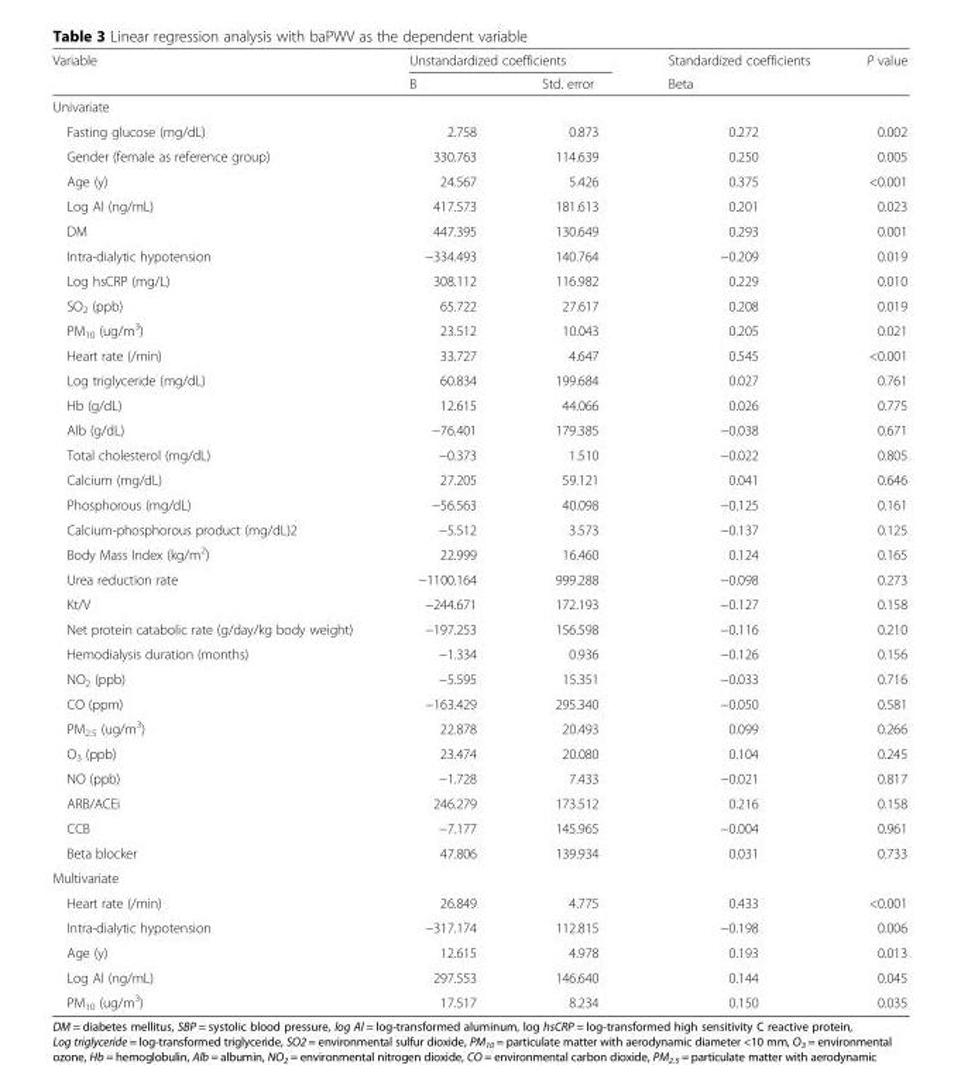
<table><thead><tr><td rowspan="2">Variable</td><td colspan="2">Unstandardized coefficients</td><td rowspan="2">Standardized coefficients Beta</td><td rowspan="2">P value</td></tr><tr><td>B</td><td>Std. error</td></tr></thead><tbody><tr><td colspan="5">Univariate</td></tr><tr><td>Fasting glucose (mg/dL)</td><td>2.758</td><td>0.873</td><td>0.272</td><td>0.002</td></tr><tr><td>Gender (female as reference group)</td><td>330.763</td><td>114.639</td><td>0.250</td><td>0.005</td></tr><tr><td>Age (y)</td><td>24.567</td><td>5.426</td><td>0.375</td><td>&lt;0.001</td></tr><tr><td>Log Al (ng/mL)</td><td>417.573</td><td>181.613</td><td>0.201</td><td>0.023</td></tr><tr><td>DM</td><td>447.395</td><td>130.649</td><td>0.293</td><td>0.001</td></tr><tr><td>Intra-dialytic hypotension</td><td>−334.493</td><td>140.764</td><td>−0.209</td><td>0.019</td></tr><tr><td>Log hsCRP (mg/L)</td><td>308.112</td><td>116.982</td><td>0.229</td><td>0.010</td></tr><tr><td>SO<sub>2</sub> (ppb)</td><td>65.722</td><td>27.617</td><td>0.208</td><td>0.019</td></tr><tr><td>PM<sub>10</sub> (ug/m<sup>3</sup>)</td><td>23.512</td><td>10.043</td><td>0.205</td><td>0.021</td></tr><tr><td>Heart rate (/min)</td><td>33.727</td><td>4.647</td><td>0.545</td><td>&lt;0.001</td></tr><tr><td>Log triglyceride (mg/dL)</td><td>60.834</td><td>199.684</td><td>0.027</td><td>0.761</td></tr><tr><td>Hb (g/dL)</td><td>12.615</td><td>44.066</td><td>0.026</td><td>0.775</td></tr><tr><td>Alb (g/dL)</td><td>−76.401</td><td>179.385</td><td>−0.038</td><td>0.671</td></tr><tr><td>Total cholesterol (mg/dL)</td><td>−0.373</td><td>1.510</td><td>−0.022</td><td>0.805</td></tr><tr><td>Calcium (mg/dL)</td><td>27.205</td><td>59.121</td><td>0.041</td><td>0.646</td></tr><tr><td>Phosphorous (mg/dL)</td><td>−56.563</td><td>40.098</td><td>−0.125</td><td>0.161</td></tr><tr><td>Calcium-phosphorous product (mg/dL)2</td><td>−5.512</td><td>3.573</td><td>−0.137</td><td>0.125</td></tr><tr><td>Body Mass Index (kg/m<sup>2</sup>)</td><td>22.999</td><td>16.460</td><td>0.124</td><td>0.165</td></tr><tr><td>Urea reduction rate</td><td>−1100.164</td><td>999.288</td><td>−0.098</td><td>0.273</td></tr><tr><td>Kt/V</td><td>−244.671</td><td>172.193</td><td>−0.127</td><td>0.158</td></tr><tr><td>Net protein catabolic rate (g/day/kg body weight)</td><td>−197.253</td><td>156.598</td><td>−0.116</td><td>0.210</td></tr><tr><td>Hemodialysis duration (months)</td><td>−1.334</td><td>0.936</td><td>−0.126</td><td>0.156</td></tr><tr><td>NO<sub>2</sub> (ppb)</td><td>−5.595</td><td>15.351</td><td>−0.033</td><td>0.716</td></tr><tr><td>CO (ppm)</td><td>−163.429</td><td>295.340</td><td>−0.050</td><td>0.581</td></tr><tr><td>PM<sub>2.5</sub> (ug/m<sup>3</sup>)</td><td>22.878</td><td>20.493</td><td>0.099</td><td>0.266</td></tr><tr><td>O<sub>3</sub> (ppb)</td><td>23.474</td><td>20.080</td><td>0.104</td><td>0.245</td></tr><tr><td>NO (ppb)</td><td>−1.728</td><td>7.433</td><td>−0.021</td><td>0.817</td></tr><tr><td>ARB/ACEi</td><td>246.279</td><td>173.512</td><td>0.216</td><td>0.158</td></tr><tr><td>CCB</td><td>−7.177</td><td>145.965</td><td>−0.004</td><td>0.961</td></tr><tr><td>Beta blocker</td><td>47.806</td><td>139.934</td><td>0.031</td><td>0.733</td></tr><tr><td colspan="5">Multivariate</td></tr><tr><td>Heart rate (/min)</td><td>26.849</td><td>4.775</td><td>0.433</td><td>&lt;0.001</td></tr><tr><td>Intra-dialytic hypotension</td><td>−317.174</td><td>112.815</td><td>−0.198</td><td>0.006</td></tr><tr><td>Age (y)</td><td>12.615</td><td>4.978</td><td>0.193</td><td>0.013</td></tr><tr><td>Log Al (ng/mL)</td><td>297.553</td><td>146.640</td><td>0.144</td><td>0.045</td></tr><tr><td>PM<sub>10</sub> (ug/m<sup>3</sup>)</td><td>17.517</td><td>8.234</td><td>0.150</td><td>0.035</td></tr></tbody></table>